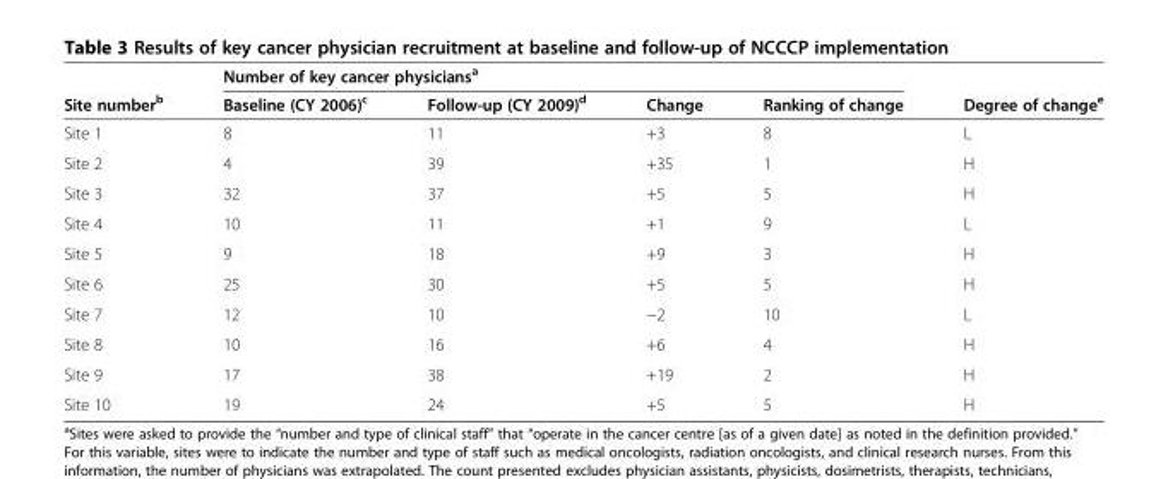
<table><thead><tr><td rowspan="2">Site number<sup>b</sup></td><td colspan="4">Number of key cancer physicians<sup>a</sup></td><td rowspan="2">Degree of change<sup>e</sup></td></tr><tr><td>Baseline (CY 2006)<sup>c</sup></td><td>Follow-up (CY 2009)<sup>d</sup></td><td>Change</td><td>Ranking of change</td></tr></thead><tbody><tr><td>Site 1</td><td>8</td><td>11</td><td>+3</td><td>8</td><td>L</td></tr><tr><td>Site 2</td><td>4</td><td>39</td><td>+35</td><td>1</td><td>H</td></tr><tr><td>Site 3</td><td>32</td><td>37</td><td>+5</td><td>5</td><td>H</td></tr><tr><td>Site 4</td><td>10</td><td>11</td><td>+1</td><td>9</td><td>L</td></tr><tr><td>Site 5</td><td>9</td><td>18</td><td>+9</td><td>3</td><td>H</td></tr><tr><td>Site 6</td><td>25</td><td>30</td><td>+5</td><td>5</td><td>H</td></tr><tr><td>Site 7</td><td>12</td><td>10</td><td>−2</td><td>10</td><td>L</td></tr><tr><td>Site 8</td><td>10</td><td>16</td><td>+6</td><td>4</td><td>H</td></tr><tr><td>Site 9</td><td>17</td><td>38</td><td>+19</td><td>2</td><td>H</td></tr><tr><td>Site 10</td><td>19</td><td>24</td><td>+5</td><td>5</td><td>H</td></tr></tbody></table>